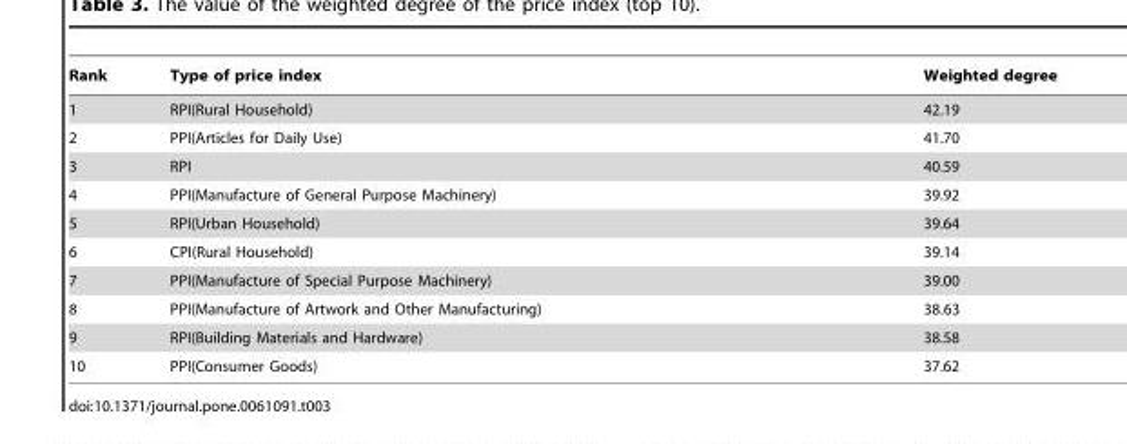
<table><thead><tr><td>Rank</td><td>Type of price index</td><td>Weighted degree</td></tr></thead><tbody><tr><td>1</td><td>RPI(Rural Household)</td><td>42.19</td></tr><tr><td>2</td><td>PPI(Articles for Daily Use)</td><td>41.70</td></tr><tr><td>3</td><td>RPI</td><td>40.59</td></tr><tr><td>4</td><td>PPI(Manufacture of General Purpose Machinery)</td><td>39.92</td></tr><tr><td>5</td><td>RPI(Urban Household)</td><td>39.64</td></tr><tr><td>6</td><td>CPI(Rural Household)</td><td>39.14</td></tr><tr><td>7</td><td>PPI(Manufacture of Special Purpose Machinery)</td><td>39.00</td></tr><tr><td>8</td><td>PPI(Manufacture of Artwork and Other Manufacturing)</td><td>38.63</td></tr><tr><td>9</td><td>RPI(Building Materials and Hardware)</td><td>38.58</td></tr><tr><td>10</td><td>PPI(Consumer Goods)</td><td>37.62</td></tr></tbody></table>